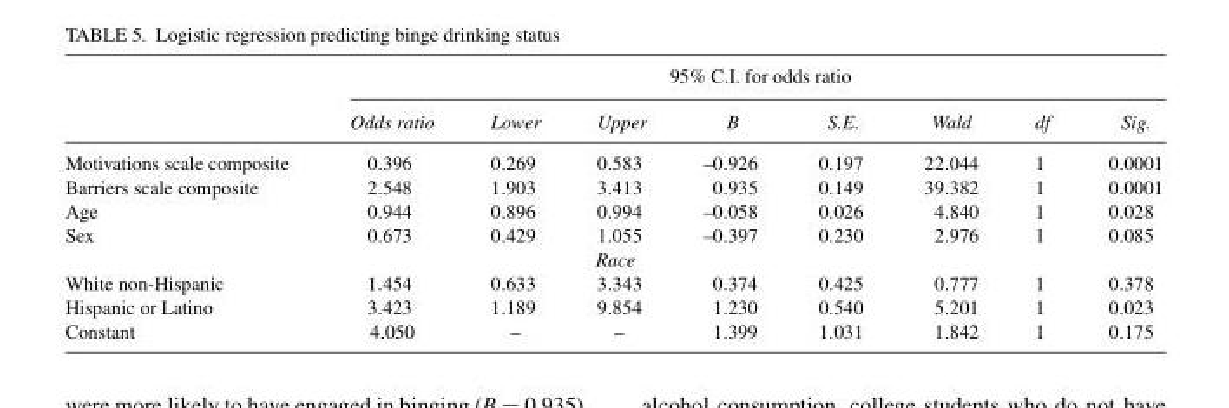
<table><thead><tr><td rowspan="2"></td><td colspan="8">95% C.I. for odds ratio</td></tr><tr><td>Odds ratio</td><td>Lower</td><td>Upper</td><td>B</td><td>S.E.</td><td>Wald</td><td>df</td><td>Sig.</td></tr></thead><tbody><tr><td>Motivations scale composite</td><td>0.396</td><td>0.269</td><td>0.583</td><td>–0.926</td><td>0.197</td><td>22.044</td><td>1</td><td>0.0001</td></tr><tr><td>Barriers scale composite</td><td>2.548</td><td>1.903</td><td>3.413</td><td>0.935</td><td>0.149</td><td>39.382</td><td>1</td><td>0.0001</td></tr><tr><td>Age</td><td>0.944</td><td>0.896</td><td>0.994</td><td>–0.058</td><td>0.026</td><td>4.840</td><td>1</td><td>0.028</td></tr><tr><td rowspan="2">Sex</td><td>0.673</td><td>0.429</td><td>1.055</td><td>–0.397</td><td>0.230</td><td>2.976</td><td>1</td><td>0.085</td></tr><tr><td></td><td></td><td>Race</td><td></td><td></td><td></td><td></td><td></td></tr><tr><td>White non-Hispanic</td><td>1.454</td><td>0.633</td><td>3.343</td><td>0.374</td><td>0.425</td><td>0.777</td><td>1</td><td>0.378</td></tr><tr><td>Hispanic or Latino</td><td>3.423</td><td>1.189</td><td>9.854</td><td>1.230</td><td>0.540</td><td>5.201</td><td>1</td><td>0.023</td></tr><tr><td>Constant</td><td>4.050</td><td>–</td><td>–</td><td>1.399</td><td>1.031</td><td>1.842</td><td>1</td><td>0.175</td></tr></tbody></table>